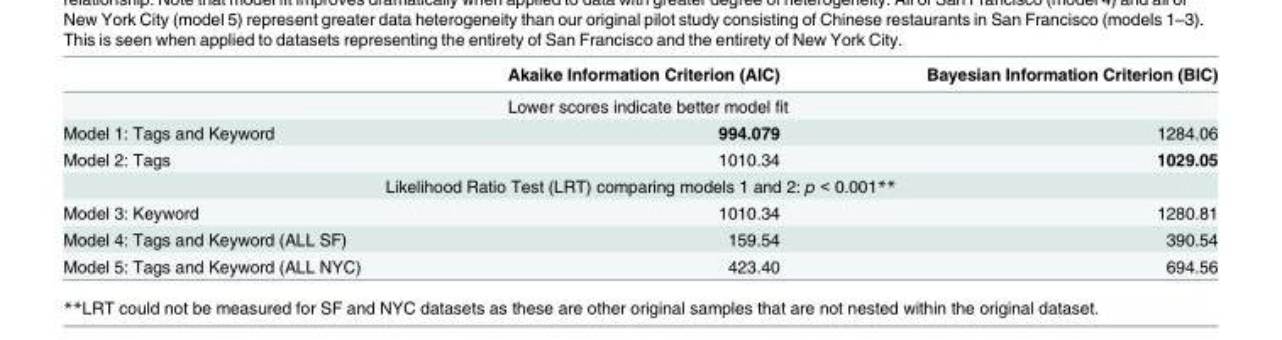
<table><thead><tr><td></td><td>Akaike Information Criterion (AIC)</td><td>Bayesian Information Criterion (BIC)</td></tr></thead><tbody><tr><td></td><td colspan="2">Lower scores indicate better model fit</td></tr><tr><td>Model 1: Tags and Keyword</td><td>994.079</td><td>1284.06</td></tr><tr><td>Model 2: Tags</td><td>1010.34</td><td>1029.05</td></tr><tr><td colspan="3">Likelihood Ratio Test (LRT) comparing models 1 and 2: p &lt; 0.001**</td></tr><tr><td>Model 3: Keyword</td><td>1010.34</td><td>1280.81</td></tr><tr><td>Model 4: Tags and Keyword (ALL SF)</td><td>159.54</td><td>390.54</td></tr><tr><td>Model 5: Tags and Keyword (ALL NYC)</td><td>423.40</td><td>694.56</td></tr></tbody></table>